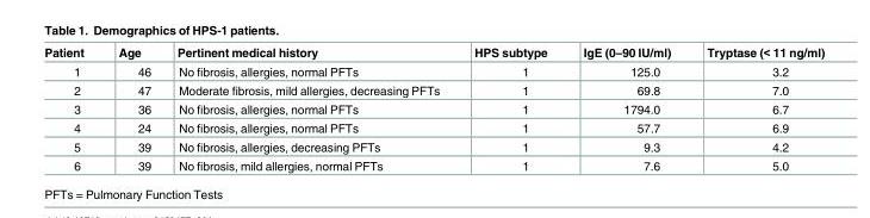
<table><thead><tr><td>Patient</td><td>Age</td><td>Pertinent medical history</td><td>HPS subtype</td><td>IgE (0–90 IU/ml)</td><td>Tryptase (&lt; 11 ng/ml)</td></tr></thead><tbody><tr><td>1</td><td>46</td><td>No fibrosis, allergies, normal PFTs</td><td>1</td><td>125.0</td><td>3.2</td></tr><tr><td>2</td><td>47</td><td>Moderate fibrosis, mild allergies, decreasing PFTs</td><td>1</td><td>69.8</td><td>7.0</td></tr><tr><td>3</td><td>36</td><td>No fibrosis, allergies, normal PFTs</td><td>1</td><td>1794.0</td><td>6.7</td></tr><tr><td>4</td><td>24</td><td>No fibrosis, allergies, normal PFTs</td><td>1</td><td>57.7</td><td>6.9</td></tr><tr><td>5</td><td>39</td><td>No fibrosis, allergies, decreasing PFTs</td><td>1</td><td>9.3</td><td>4.2</td></tr><tr><td>6</td><td>39</td><td>No fibrosis, mild allergies, normal PFTs</td><td>1</td><td>7.6</td><td>5.0</td></tr></tbody></table>